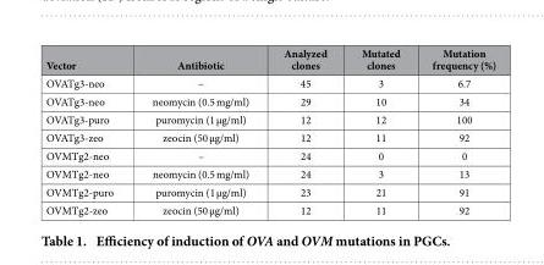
<table><thead><tr><td>Vector</td><td>Antibiotic</td><td>Analyzed clones</td><td>Mutated clones</td><td>Mutation frequency (%)</td></tr></thead><tbody><tr><td>OVATg3-neo</td><td>–</td><td>45</td><td>3</td><td>6.7</td></tr><tr><td>OVATg3-neo</td><td>neomycin (0.5 mg/ml)</td><td>29</td><td>10</td><td>34</td></tr><tr><td>OVATg3-puro</td><td>puromycin (1 μg/ml)</td><td>12</td><td>12</td><td>100</td></tr><tr><td>OVATg3-zeo</td><td>zeocin (50 μg/ml)</td><td>12</td><td>11</td><td>92</td></tr><tr><td>OVMTg2-neo</td><td>–</td><td>24</td><td>0</td><td>0</td></tr><tr><td>OVMTg2-neo</td><td>neomycin (0.5 mg/ml)</td><td>24</td><td>3</td><td>13</td></tr><tr><td>OVMTg2-puro</td><td>puromycin (1 μg/ml)</td><td>23</td><td>21</td><td>91</td></tr><tr><td>OVMTg2-zeo</td><td>zeocin (50 μg/ml)</td><td>12</td><td>11</td><td>92</td></tr></tbody></table>